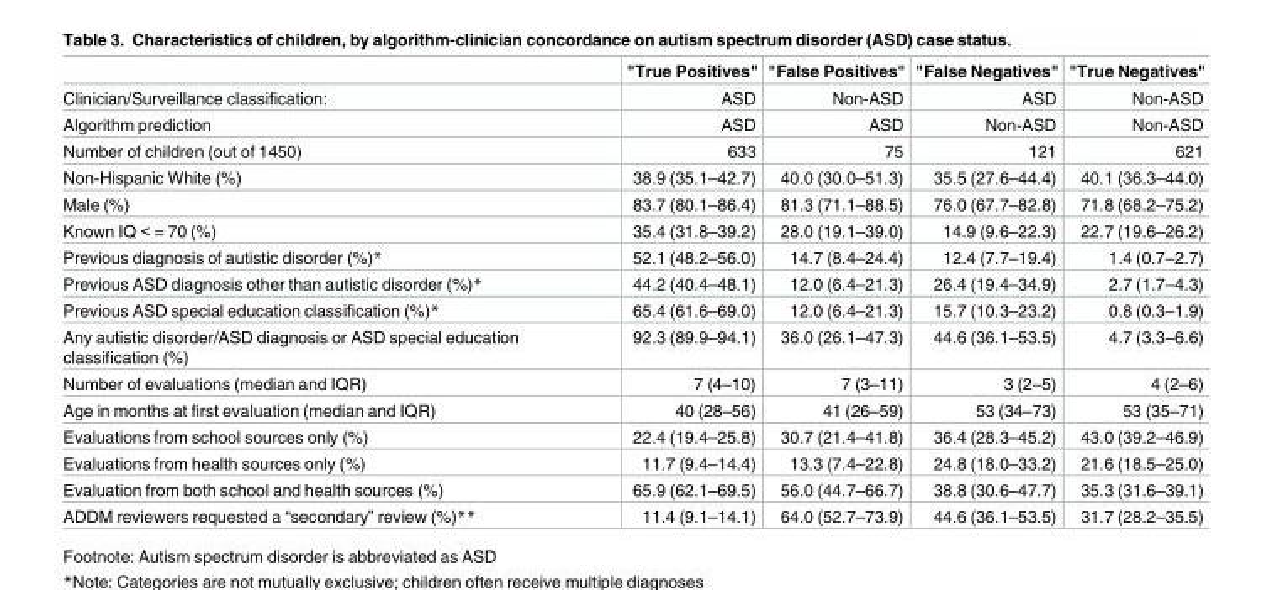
<table><thead><tr><td></td><td>&quot;True Positives&quot;</td><td>&quot;False Positives&quot;</td><td>&quot;False Negatives&quot;</td><td>&quot;True Negatives&quot;</td></tr></thead><tbody><tr><td>Clinician/Surveillance classification:</td><td>ASD</td><td>Non-ASD</td><td>ASD</td><td>Non-ASD</td></tr><tr><td>Algorithm prediction</td><td>ASD</td><td>ASD</td><td>Non-ASD</td><td>Non-ASD</td></tr><tr><td>Number of children (out of 1450)</td><td>633</td><td>75</td><td>121</td><td>621</td></tr><tr><td>Non-Hispanic White (%)</td><td>38.9 (35.1–42.7)</td><td>40.0 (30.0–51.3)</td><td>35.5 (27.6–44.4)</td><td>40.1 (36.3–44.0)</td></tr><tr><td>Male (%)</td><td>83.7 (80.1–86.4)</td><td>81.3 (71.1–88.5)</td><td>76.0 (67.7–82.8)</td><td>71.8 (68.2–75.2)</td></tr><tr><td>Known IQ &lt; = 70 (%)</td><td>35.4 (31.8–39.2)</td><td>28.0 (19.1–39.0)</td><td>14.9 (9.6–22.3)</td><td>22.7 (19.6–26.2)</td></tr><tr><td>Previous diagnosis of autistic disorder (%)*</td><td>52.1 (48.2–56.0)</td><td>14.7 (8.4–24.4)</td><td>12.4 (7.7–19.4)</td><td>1.4 (0.7–2.7)</td></tr><tr><td>Previous ASD diagnosis other than autistic disorder (%)*</td><td>44.2 (40.4–48.1)</td><td>12.0 (6.4–21.3)</td><td>26.4 (19.4–34.9)</td><td>2.7 (1.7–4.3)</td></tr><tr><td>Previous ASD special education classification (%)*</td><td>65.4 (61.6–69.0)</td><td>12.0 (6.4–21.3)</td><td>15.7 (10.3–23.2)</td><td>0.8 (0.3–1.9)</td></tr><tr><td>Any autistic disorder/ASD diagnosis or ASD special education classification (%)</td><td>92.3 (89.9–94.1)</td><td>36.0 (26.1–47.3)</td><td>44.6 (36.1–53.5)</td><td>4.7 (3.3–6.6)</td></tr><tr><td>Number of evaluations (median and IQR)</td><td>7 (4–10)</td><td>7 (3–11)</td><td>3 (2–5)</td><td>4 (2–6)</td></tr><tr><td>Age in months at first evaluation (median and IQR)</td><td>40 (28–56)</td><td>41 (26–59)</td><td>53 (34–73)</td><td>53 (35–71)</td></tr><tr><td>Evaluations from school sources only (%)</td><td>22.4 (19.4–25.8)</td><td>30.7 (21.4–41.8)</td><td>36.4 (28.3–45.2)</td><td>43.0 (39.2–46.9)</td></tr><tr><td>Evaluations from health sources only (%)</td><td>11.7 (9.4–14.4)</td><td>13.3 (7.4–22.8)</td><td>24.8 (18.0–33.2)</td><td>21.6 (18.5–25.0)</td></tr><tr><td>Evaluation from both school and health sources (%)</td><td>65.9 (62.1–69.5)</td><td>56.0 (44.7–66.7)</td><td>38.8 (30.6–47.7)</td><td>35.3 (31.6–39.1)</td></tr><tr><td>ADDM reviewers requested a “secondary” review (%)**</td><td>11.4 (9.1–14.1)</td><td>64.0 (52.7–73.9)</td><td>44.6 (36.1–53.5)</td><td>31.7 (28.2–35.5)</td></tr></tbody></table>